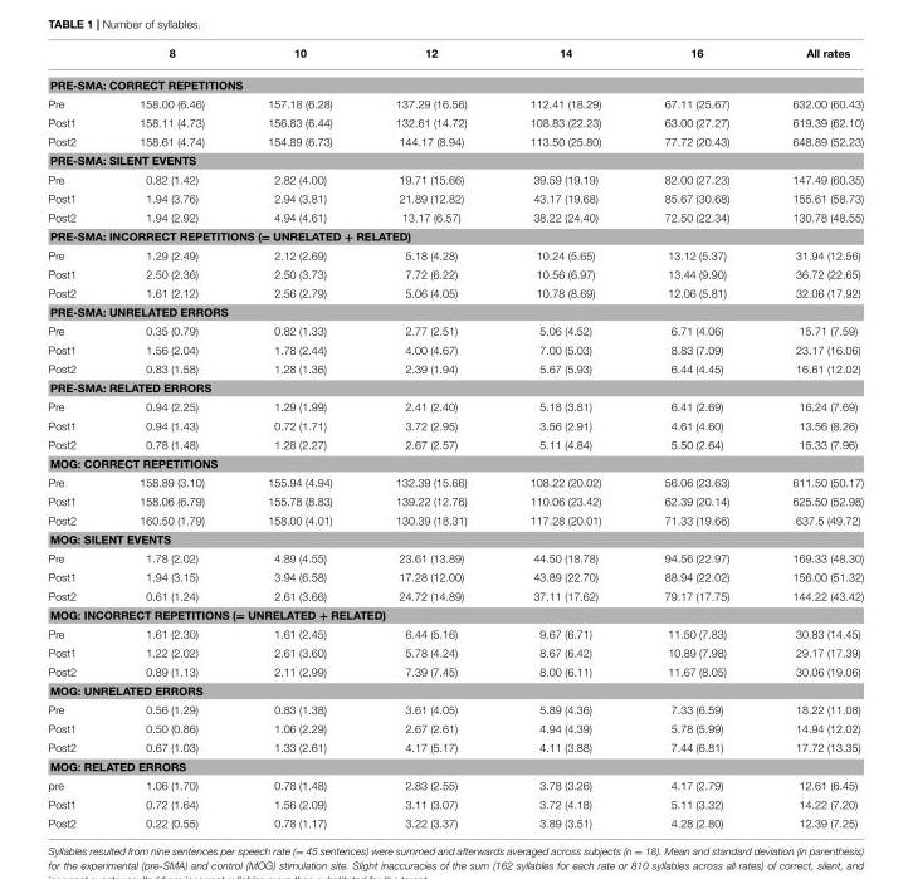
<table><thead><tr><td></td><td>8</td><td>10</td><td>12</td><td>14</td><td>16</td><td>All rates</td></tr></thead><tbody><tr><td colspan="7">PRE-SMA: CORRECT REPETITIONS</td></tr><tr><td>Pre</td><td>158.00 (6.46)</td><td>157.18 (6.28)</td><td>137.29 (16.56)</td><td>112.41 (18.29)</td><td>67.11 (25.67)</td><td>632.00 (60.43)</td></tr><tr><td>Post1</td><td>158.11 (4.73)</td><td>156.83 (6.44)</td><td>132.61 (14.72)</td><td>108.83 (22.23)</td><td>63.00 (27.27)</td><td>619.39 (62.10)</td></tr><tr><td>Post2</td><td>158.61 (4.74)</td><td>154.89 (6.73)</td><td>144.17 (8.94)</td><td>113.50 (25.80)</td><td>77.72 (20.43)</td><td>648.89 (52.23)</td></tr><tr><td colspan="7">PRE-SMA: SILENT EVENTS</td></tr><tr><td>Pre</td><td>0.82 (1.42)</td><td>2.82 (4.00)</td><td>19.71 (15.66)</td><td>39.59 (19.19)</td><td>82.00 (27.23)</td><td>147.49 (60.35)</td></tr><tr><td>Post1</td><td>1.94 (3.76)</td><td>2.94 (3.81)</td><td>21.89 (12.82)</td><td>43.17 (19.68)</td><td>85.67 (30.68)</td><td>155.61 (58.73)</td></tr><tr><td>Post2</td><td>1.94 (2.92)</td><td>4.94 (4.61)</td><td>13.17 (6.57)</td><td>38.22 (24.40)</td><td>72.50 (22.34)</td><td>130.78 (48.55)</td></tr><tr><td colspan="7">PRE-SMA: INCORRECT REPETITIONS (= UNRELATED + RELATED)</td></tr><tr><td>Pre</td><td>1.29 (2.49)</td><td>2.12 (2.69)</td><td>5.18 (4.28)</td><td>10.24 (5.65)</td><td>13.12 (5.37)</td><td>31.94 (12.56)</td></tr><tr><td>Post1</td><td>2.50 (2.36)</td><td>2.50 (3.73)</td><td>7.72 (6.22)</td><td>10.56 (6.97)</td><td>13.44 (9.90)</td><td>36.72 (22.65)</td></tr><tr><td>Post2</td><td>1.61 (2.12)</td><td>2.56 (2.79)</td><td>5.06 (4.05)</td><td>10.78 (8.69)</td><td>12.06 (5.81)</td><td>32.06 (17.92)</td></tr><tr><td colspan="7">PRE-SMA: UNRELATED ERRORS</td></tr><tr><td>Pre</td><td>0.35 (0.79)</td><td>0.82 (1.33)</td><td>2.77 (2.51)</td><td>5.06 (4.52)</td><td>6.71 (4.06)</td><td>15.71 (7.59)</td></tr><tr><td>Post1</td><td>1.56 (2.04)</td><td>1.78 (2.44)</td><td>4.00 (4.67)</td><td>7.00 (5.03)</td><td>8.83 (7.09)</td><td>23.17 (16.06)</td></tr><tr><td>Post2</td><td>0.83 (1.58)</td><td>1.28 (1.36)</td><td>2.39 (1.94)</td><td>5.67 (5.93)</td><td>6.44 (4.45)</td><td>16.61 (12.02)</td></tr><tr><td colspan="7">PRE-SMA: RELATED ERRORS</td></tr><tr><td>Pre</td><td>0.94 (2.25)</td><td>1.29 (1.99)</td><td>2.41 (2.40)</td><td>5.18 (3.81)</td><td>6.41 (2.69)</td><td>16.24 (7.69)</td></tr><tr><td>Post1</td><td>0.94 (1.43)</td><td>0.72 (1.71)</td><td>3.72 (2.95)</td><td>3.56 (2.91)</td><td>4.61 (4.60)</td><td>13.56 (8.26)</td></tr><tr><td>Post2</td><td>0.78 (1.48)</td><td>1.28 (2.27)</td><td>2.67 (2.57)</td><td>5.11 (4.84)</td><td>5.50 (2.64)</td><td>15.33 (7.96)</td></tr><tr><td colspan="7">MOG: CORRECT REPETITIONS</td></tr><tr><td>Pre</td><td>158.89 (3.10)</td><td>155.94 (4.94)</td><td>132.39 (15.66)</td><td>108.22 (20.02)</td><td>56.06 (23.63)</td><td>611.50 (50.17)</td></tr><tr><td>Post1</td><td>158.06 (6.79)</td><td>155.78 (8.83)</td><td>139.22 (12.76)</td><td>110.06 (23.42)</td><td>62.39 (20.14)</td><td>625.50 (52.98)</td></tr><tr><td>Post2</td><td>160.50 (1.79)</td><td>158.00 (4.01)</td><td>130.39 (18.31)</td><td>117.28 (20.01)</td><td>71.33 (19.66)</td><td>637.5 (49.72)</td></tr><tr><td colspan="7">MOG: SILENT EVENTS</td></tr><tr><td>Pre</td><td>1.78 (2.02)</td><td>4.89 (4.55)</td><td>23.61 (13.89)</td><td>44.50 (18.78)</td><td>94.56 (22.97)</td><td>169.33 (48.30)</td></tr><tr><td>Post1</td><td>1.94 (3.15)</td><td>3.94 (6.58)</td><td>17.28 (12.00)</td><td>43.89 (22.70)</td><td>88.94 (22.02)</td><td>156.00 (51.32)</td></tr><tr><td>Post2</td><td>0.61 (1.24)</td><td>2.61 (3.66)</td><td>24.72 (14.89)</td><td>37.11 (17.62)</td><td>79.17 (17.75)</td><td>144.22 (43.42)</td></tr><tr><td colspan="7">MOG: INCORRECT REPETITIONS (= UNRELATED + RELATED)</td></tr><tr><td>Pre</td><td>1.61 (2.30)</td><td>1.61 (2.45)</td><td>6.44 (5.16)</td><td>9.67 (6.71)</td><td>11.50 (7.83)</td><td>30.83 (14.45)</td></tr><tr><td>Post1</td><td>1.22 (2.02)</td><td>2.61 (3.60)</td><td>5.78 (4.24)</td><td>8.67 (6.42)</td><td>10.89 (7.98)</td><td>29.17 (17.39)</td></tr><tr><td>Post2</td><td>0.89 (1.13)</td><td>2.11 (2.99)</td><td>7.39 (7.45)</td><td>8.00 (6.11)</td><td>11.67 (8.05)</td><td>30.06 (19.06)</td></tr><tr><td colspan="7">MOG: UNRELATED ERRORS</td></tr><tr><td>Pre</td><td>0.56 (1.29)</td><td>0.83 (1.38)</td><td>3.61 (4.05)</td><td>5.89 (4.36)</td><td>7.33 (6.59)</td><td>18.22 (11.08)</td></tr><tr><td>Post1</td><td>0.50 (0.86)</td><td>1.06 (2.29)</td><td>2.67 (2.61)</td><td>4.94 (4.39)</td><td>5.78 (5.99)</td><td>14.94 (12.02)</td></tr><tr><td>Post2</td><td>0.67 (1.03)</td><td>1.33 (2.61)</td><td>4.17 (5.17)</td><td>4.11 (3.88)</td><td>7.44 (6.81)</td><td>17.72 (13.35)</td></tr><tr><td colspan="7">MOG: RELATED ERRORS</td></tr><tr><td>pre</td><td>1.06 (1.70)</td><td>0.78 (1.48)</td><td>2.83 (2.55)</td><td>3.78 (3.26)</td><td>4.17 (2.79)</td><td>12.61 (6.45)</td></tr><tr><td>Post1</td><td>0.72 (1.64)</td><td>1.56 (2.09)</td><td>3.11 (3.07)</td><td>3.72 (4.18)</td><td>5.11 (3.32)</td><td>14.22 (7.20)</td></tr><tr><td>Post2</td><td>0.22 (0.55)</td><td>0.78 (1.17)</td><td>3.22 (3.37)</td><td>3.89 (3.51)</td><td>4.28 (2.80)</td><td>12.39 (7.25)</td></tr></tbody></table>